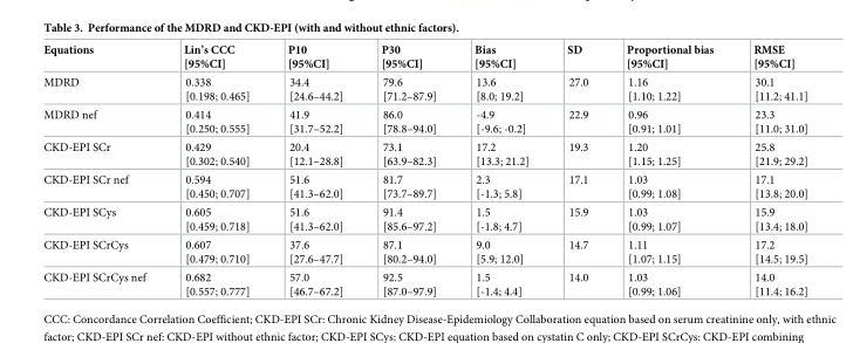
<table><thead><tr><td>Equations</td><td>Lin’s CCC [95%CI]</td><td>P10 [95%CI]</td><td>P30 [95%CI]</td><td>Bias [95%CI]</td><td>SD</td><td>Proportional bias [95%CI]</td><td>RMSE [95%CI]</td></tr></thead><tbody><tr><td>MDRD</td><td>0.338 [0.198; 0.465]</td><td>34.4 [24.6–44.2]</td><td>79.6 [71.2–87.9]</td><td>13.6 [8.0; 19.2]</td><td>27.0</td><td>1.16 [1.10; 1.22]</td><td>30.1 [11.2; 41.1]</td></tr><tr><td>MDRD nef</td><td>0.414 [0.250; 0.555]</td><td>41.9 [31.7–52.2]</td><td>86.0 [78.8–94.0]</td><td>-4.9 [-9.6; -0.2]</td><td>22.9</td><td>0.96 [0.91; 1.01]</td><td>23.3 [11.0; 31.0]</td></tr><tr><td>CKD-EPI SCr</td><td>0.429 [0.302; 0.540]</td><td>20.4 [12.1–28.8]</td><td>73.1 [63.9–82.3]</td><td>17.2 [13.3; 21.2]</td><td>19.3</td><td>1.20 [1.15; 1.25]</td><td>25.8 [21.9; 29.2]</td></tr><tr><td>CKD-EPI SCr nef</td><td>0.594 [0.450; 0.707]</td><td>51.6 [41.3–62.0]</td><td>81.7 [73.7–89.7]</td><td>2.3 [-1.3; 5.8]</td><td>17.1</td><td>1.03 [0.99; 1.08]</td><td>17.1 [13.8; 20.0]</td></tr><tr><td>CKD-EPI SCys</td><td>0.605 [0.459; 0.718]</td><td>51.6 [41.3–62.0]</td><td>91.4 [85.6–97.2]</td><td>1.5 [-1.8; 4.7]</td><td>15.9</td><td>1.03 [0.99; 1.07]</td><td>15.9 [13.4; 18.0]</td></tr><tr><td>CKD-EPI SCrCys</td><td>0.607 [0.479; 0.710]</td><td>37.6 [27.6–47.7]</td><td>87.1 [80.2–94.0]</td><td>9.0 [5.9; 12.0]</td><td>14.7</td><td>1.11 [1.07; 1.15]</td><td>17.2 [14.5; 19.5]</td></tr><tr><td>CKD-EPI SCrCys nef</td><td>0.682 [0.557; 0.777]</td><td>57.0 [46.7–67.2]</td><td>92.5 [87.0–97.9]</td><td>1.5 [-1.4; 4.4]</td><td>14.0</td><td>1.03 [0.99; 1.06]</td><td>14.0 [11.4; 16.2]</td></tr></tbody></table>